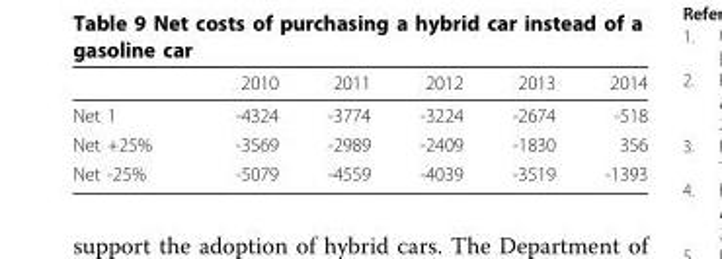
<table><thead><tr><td></td><td>2010</td><td>2011</td><td>2012</td><td>2013</td><td>2014</td></tr></thead><tbody><tr><td>Net 1</td><td>-4324</td><td>-3774</td><td>-3224</td><td>-2674</td><td>-518</td></tr><tr><td>Net +25%</td><td>-3569</td><td>-2989</td><td>-2409</td><td>-1830</td><td>356</td></tr><tr><td>Net -25%</td><td>-5079</td><td>-4559</td><td>-4039</td><td>-3519</td><td>-1393</td></tr></tbody></table>